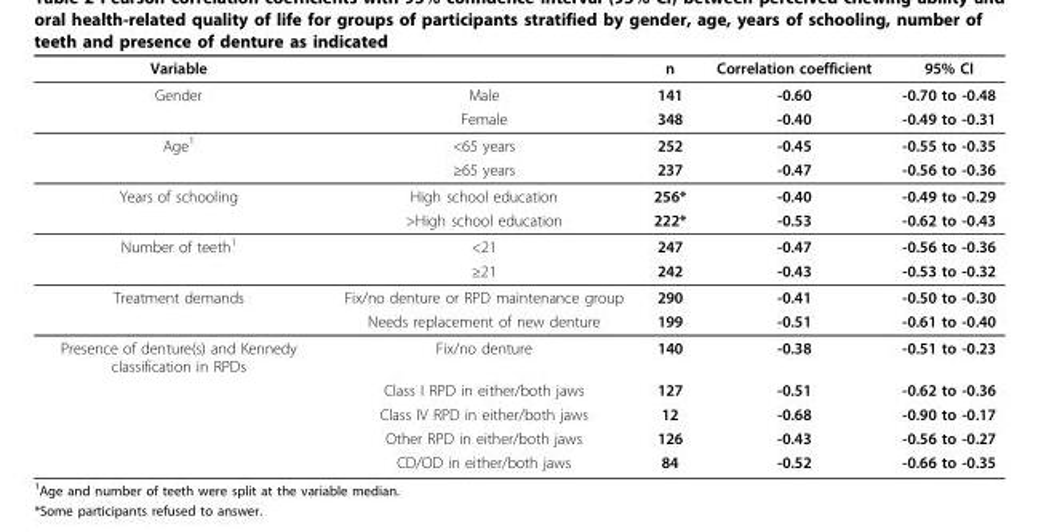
<table><thead><tr><td>Variable</td><td></td><td>n</td><td>Correlation coefficient</td><td>95% CI</td></tr></thead><tbody><tr><td rowspan="2">Gender</td><td>Male</td><td>141</td><td>-0.60</td><td>-0.70 to -0.48</td></tr><tr><td>Female</td><td>348</td><td>-0.40</td><td>-0.49 to -0.31</td></tr><tr><td rowspan="2">Age<sup>1</sup></td><td>&lt;65 years</td><td>252</td><td>-0.45</td><td>-0.55 to -0.35</td></tr><tr><td>≥65 years</td><td>237</td><td>-0.47</td><td>-0.56 to -0.36</td></tr><tr><td rowspan="2">Years of schooling</td><td>High school education</td><td>256*</td><td>-0.40</td><td>-0.49 to -0.29</td></tr><tr><td>&gt;High school education</td><td>222*</td><td>-0.53</td><td>-0.62 to -0.43</td></tr><tr><td rowspan="2">Number of teeth<sup>1</sup></td><td>&lt;21</td><td>247</td><td>-0.47</td><td>-0.56 to -0.36</td></tr><tr><td>≥21</td><td>242</td><td>-0.43</td><td>-0.53 to -0.32</td></tr><tr><td rowspan="2">Treatment demands</td><td>Fix/no denture or RPD maintenance group</td><td>290</td><td>-0.41</td><td>-0.50 to -0.30</td></tr><tr><td>Needs replacement of new denture</td><td>199</td><td>-0.51</td><td>-0.61 to -0.40</td></tr><tr><td rowspan="5">Presence of denture(s) and Kennedy classification in RPDs</td><td>Fix/no denture</td><td>140</td><td>-0.38</td><td>-0.51 to -0.23</td></tr><tr><td>Class I RPD in either/both jaws</td><td>127</td><td>-0.51</td><td>-0.62 to -0.36</td></tr><tr><td>Class IV RPD in either/both jaws</td><td>12</td><td>-0.68</td><td>-0.90 to -0.17</td></tr><tr><td>Other RPD in either/both jaws</td><td>126</td><td>-0.43</td><td>-0.56 to -0.27</td></tr><tr><td>CD/OD in either/both jaws</td><td>84</td><td>-0.52</td><td>-0.66 to -0.35</td></tr></tbody></table>